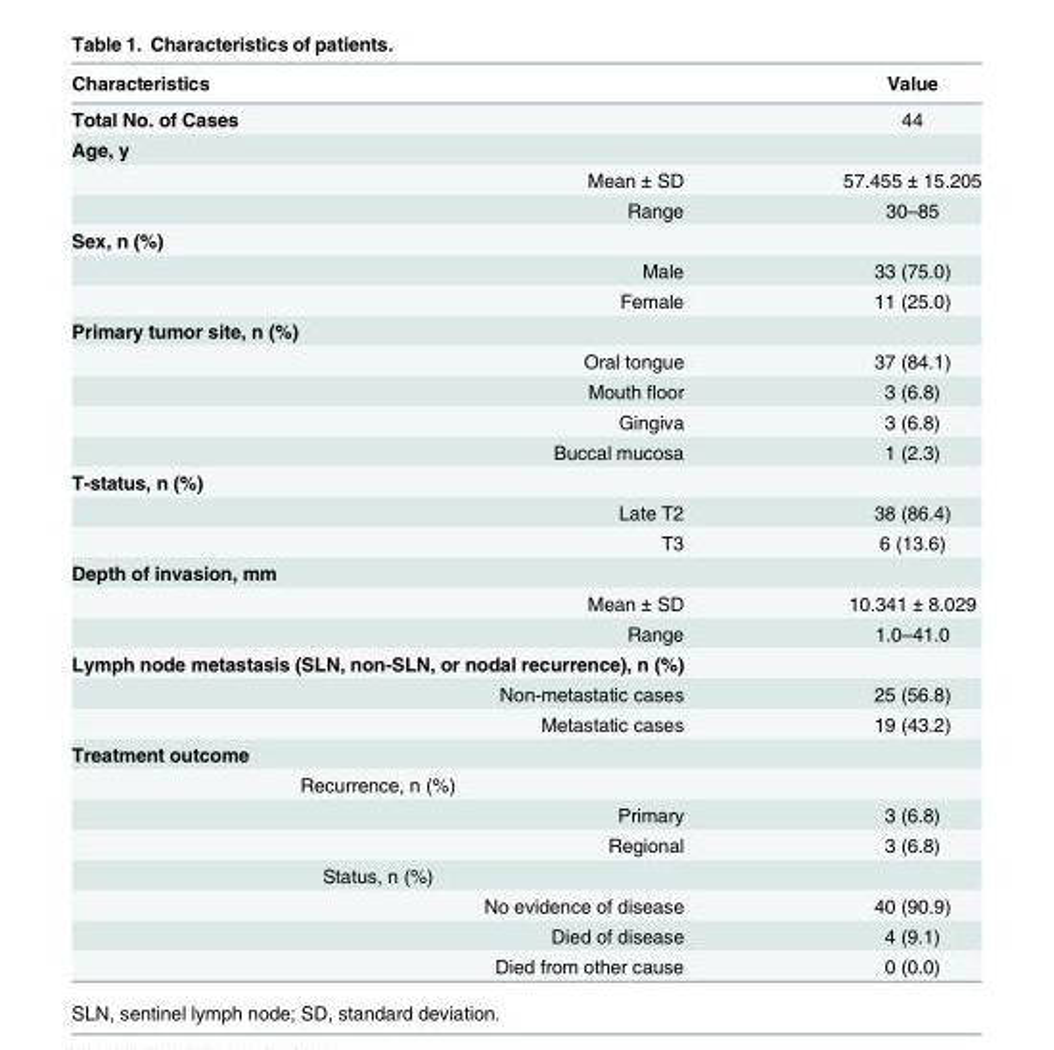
<table><thead><tr><td>Characteristics</td><td>Value</td></tr></thead><tbody><tr><td>Total No. of Cases</td><td>44</td></tr><tr><td colspan="2">Age, y</td></tr><tr><td>Mean ± SD</td><td>57.455 ± 15.205</td></tr><tr><td>Range</td><td>30–85</td></tr><tr><td colspan="2">Sex, n (%)</td></tr><tr><td>Male</td><td>33 (75.0)</td></tr><tr><td>Female</td><td>11 (25.0)</td></tr><tr><td colspan="2">Primary tumor site, n (%)</td></tr><tr><td>Oral tongue</td><td>37 (84.1)</td></tr><tr><td>Mouth floor</td><td>3 (6.8)</td></tr><tr><td>Gingiva</td><td>3 (6.8)</td></tr><tr><td>Buccal mucosa</td><td>1 (2.3)</td></tr><tr><td colspan="2">T-status, n (%)</td></tr><tr><td>Late T2</td><td>38 (86.4)</td></tr><tr><td>T3</td><td>6 (13.6)</td></tr><tr><td colspan="2">Depth of invasion, mm</td></tr><tr><td>Mean ± SD</td><td>10.341 ± 8.029</td></tr><tr><td>Range</td><td>1.0–41.0</td></tr><tr><td colspan="2">Lymph node metastasis (SLN, non-SLN, or nodal recurrence), n (%)</td></tr><tr><td>Non-metastatic cases</td><td>25 (56.8)</td></tr><tr><td>Metastatic cases</td><td>19 (43.2)</td></tr><tr><td colspan="2">Treatment outcome</td></tr><tr><td colspan="2">Recurrence, n (%)</td></tr><tr><td>Primary</td><td>3 (6.8)</td></tr><tr><td>Regional</td><td>3 (6.8)</td></tr><tr><td colspan="2">Status, n (%)</td></tr><tr><td>No evidence of disease</td><td>40 (90.9)</td></tr><tr><td>Died of disease</td><td>4 (9.1)</td></tr><tr><td>Died from other cause</td><td>0 (0.0)</td></tr></tbody></table>